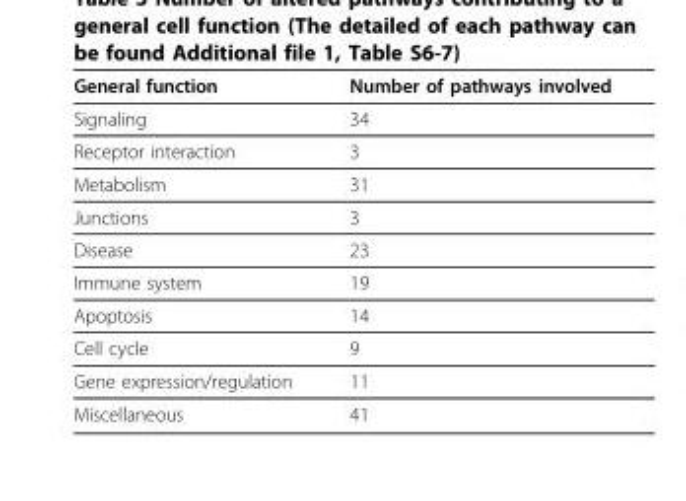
<table><thead><tr><td>General function</td><td>Number of pathways involved</td></tr></thead><tbody><tr><td>Signaling</td><td>34</td></tr><tr><td>Receptor interaction</td><td>3</td></tr><tr><td>Metabolism</td><td>31</td></tr><tr><td>Junctions</td><td>3</td></tr><tr><td>Disease</td><td>23</td></tr><tr><td>Immune system</td><td>19</td></tr><tr><td>Apoptosis</td><td>14</td></tr><tr><td>Cell cycle</td><td>9</td></tr><tr><td>Gene expression/regulation</td><td>11</td></tr><tr><td>Miscellaneous</td><td>41</td></tr></tbody></table>